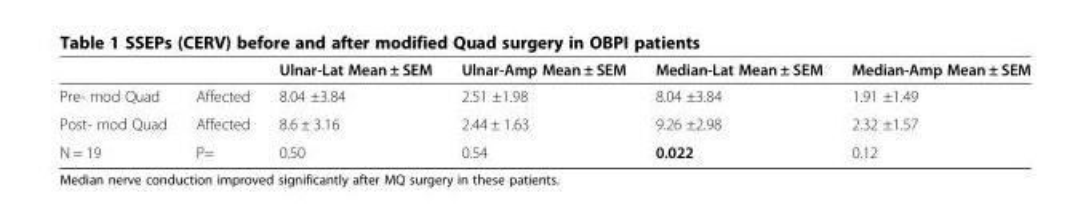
<table><thead><tr><td></td><td></td><td>Ulnar-Lat Mean ± SEM</td><td>Ulnar-Amp Mean ± SEM</td><td>Median-Lat Mean ± SEM</td><td>Median-Amp Mean ± SEM</td></tr></thead><tbody><tr><td>Pre- mod Quad</td><td>Affected</td><td>8.04 ±3.84</td><td>2.51 ±1.98</td><td>8.04 ±3.84</td><td>1.91 ±1.49</td></tr><tr><td>Post- mod Quad</td><td>Affected</td><td>8.6 ± 3.16</td><td>2.44 ± 1.63</td><td>9.26 ±2.98</td><td>2.32 ±1.57</td></tr><tr><td>N = 19</td><td>P=</td><td>0.50</td><td>0.54</td><td>0.022</td><td>0.12</td></tr></tbody></table>